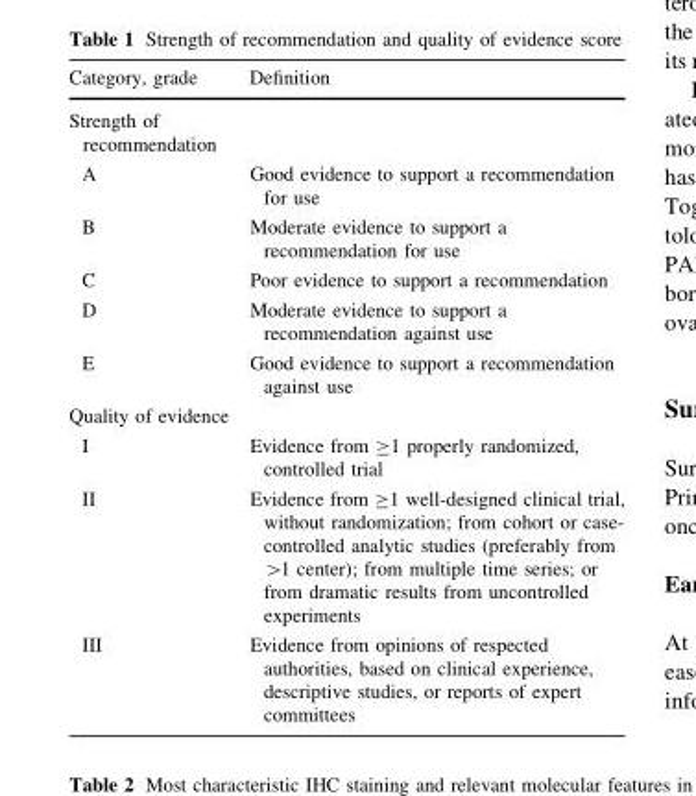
<table><thead><tr><td>Category, grade</td><td>Definition</td></tr></thead><tbody><tr><td colspan="2">Strength of recommendation</td></tr><tr><td>A</td><td>Good evidence to support a recommendation for use</td></tr><tr><td>B</td><td>Moderate evidence to support a recommendation for use</td></tr><tr><td>C</td><td>Poor evidence to support a recommendation</td></tr><tr><td>D</td><td>Moderate evidence to support a recommendation against use</td></tr><tr><td>E</td><td>Good evidence to support a recommendation against use</td></tr><tr><td colspan="2">Quality of evidence</td></tr><tr><td>I</td><td>Evidence from ≥1 properly randomized, controlled trial</td></tr><tr><td>II</td><td>Evidence from ≥1 well-designed clinical trial, without randomization; from cohort or case- controlled analytic studies (preferably from &gt;1 center); from multiple time series; or from dramatic results from uncontrolled experiments</td></tr><tr><td>III</td><td>Evidence from opinions of respected authorities, based on clinical experience, descriptive studies, or reports of expert committees</td></tr></tbody></table>